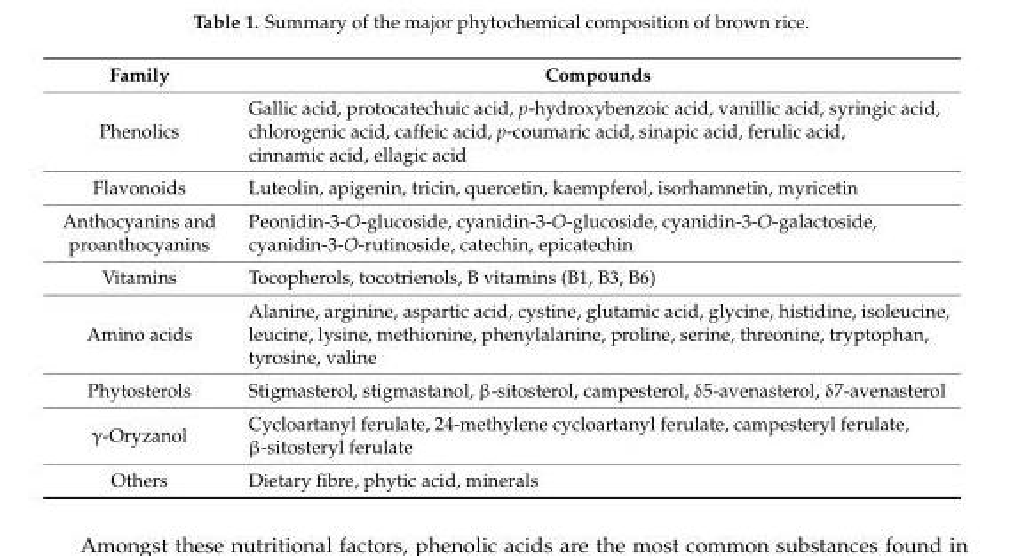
<table><thead><tr><td>Family</td><td>Compounds</td></tr></thead><tbody><tr><td>Phenolics</td><td>Gallic acid, protocatechuic acid, p-hydroxybenzoic acid, vanillic acid, syringic acid, chlorogenic acid, caffeic acid, p-coumaric acid, sinapic acid, ferulic acid, cinnamic acid, ellagic acid</td></tr><tr><td>Flavonoids</td><td>Luteolin, apigenin, tricin, quercetin, kaempferol, isorhamnetin, myricetin</td></tr><tr><td>Anthocyanins and proanthocyanins</td><td>Peonidin-3-O-glucoside, cyanidin-3-O-glucoside, cyanidin-3-O-galactoside, cyanidin-3-O-rutinoside, catechin, epicatechin</td></tr><tr><td>Vitamins</td><td>Tocopherols, tocotrienols, B vitamins (B1, B3, B6)</td></tr><tr><td>Amino acids</td><td>Alanine, arginine, aspartic acid, cystine, glutamic acid, glycine, histidine, isoleucine, leucine, lysine, methionine, phenylalanine, proline, serine, threonine, tryptophan, tyrosine, valine</td></tr><tr><td>Phytosterols</td><td>Stigmasterol, stigmastanol, β-sitosterol, campesterol, δ5-avenasterol, δ7-avenasterol</td></tr><tr><td>γ-Oryzanol</td><td>Cycloartanyl ferulate, 24-methylene cycloartanyl ferulate, campesteryl ferulate, β-sitosteryl ferulate</td></tr><tr><td>Others</td><td>Dietary fibre, phytic acid, minerals</td></tr></tbody></table>